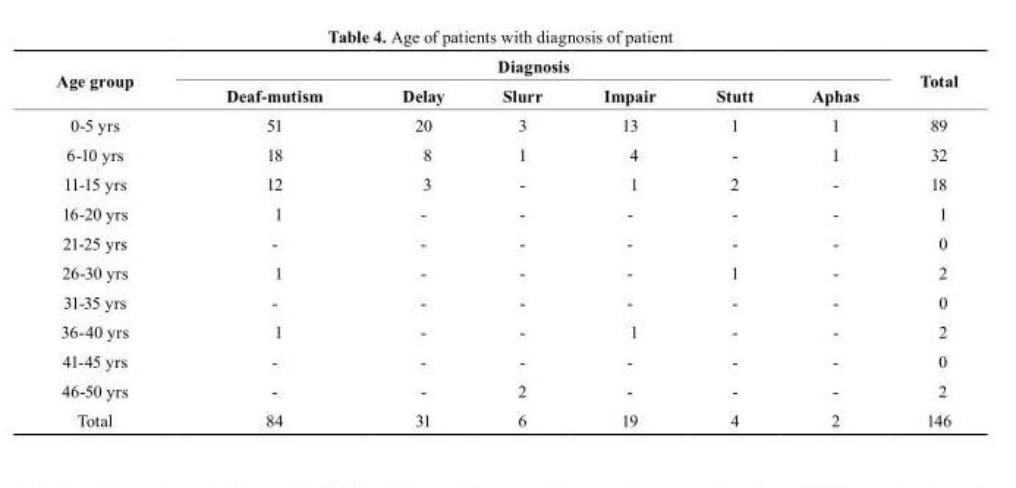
<table><thead><tr><td rowspan="2">Age group</td><td colspan="6">Diagnosis</td><td rowspan="2">total</td></tr><tr><td>Deaf-mutism</td><td>Delay</td><td>slurr</td><td>Impair</td><td>stutt</td><td>Aphas</td></tr></thead><tbody><tr><td>0-5 yrs</td><td>51</td><td>20</td><td>3</td><td>13</td><td>1</td><td>1</td><td>89</td></tr><tr><td>6-10 yrs</td><td>18</td><td>8</td><td>1</td><td>4</td><td>-</td><td>1</td><td>32</td></tr><tr><td>11-15 yrs</td><td>12</td><td>3</td><td>-</td><td>1</td><td>2</td><td>-</td><td>18</td></tr><tr><td>16-20 yrs</td><td>1</td><td>-</td><td>-</td><td>-</td><td>-</td><td>-</td><td>1</td></tr><tr><td>21-25 yrs</td><td>-</td><td>-</td><td>-</td><td>-</td><td>-</td><td>-</td><td>0</td></tr><tr><td>26-30 yrs</td><td>1</td><td>-</td><td>-</td><td>-</td><td>1</td><td>-</td><td>2</td></tr><tr><td>31-35 yrs</td><td>-</td><td>-</td><td>-</td><td>-</td><td>-</td><td>-</td><td>0</td></tr><tr><td>36-40 yrs</td><td>1</td><td>-</td><td>-</td><td>1</td><td>-</td><td>-</td><td>2</td></tr><tr><td>41-45 yrs</td><td>-</td><td>-</td><td>-</td><td>-</td><td>-</td><td>-</td><td>0</td></tr><tr><td>46-50 yrs</td><td>-</td><td>-</td><td>2</td><td>-</td><td>-</td><td>-</td><td>2</td></tr><tr><td>Total</td><td>84</td><td>31</td><td>6</td><td>19</td><td>4</td><td>2</td><td>146</td></tr></tbody></table>